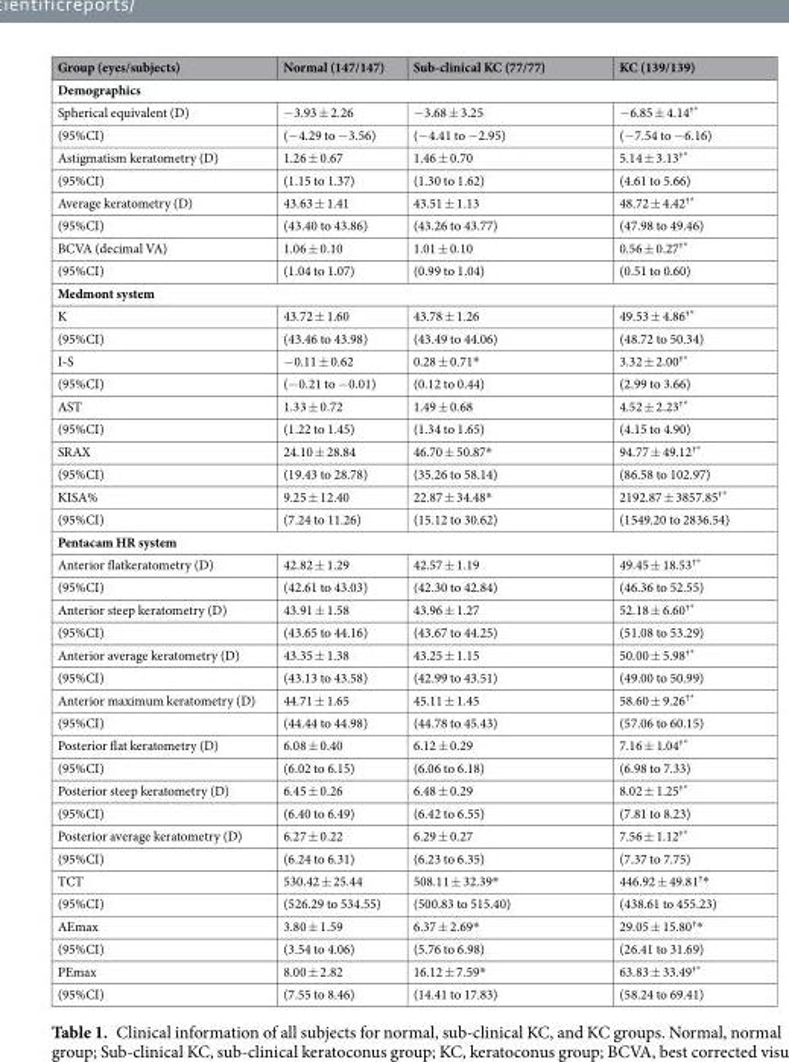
<table><thead><tr><td>Group (eyes/subjects)</td><td>Normal (147/147)</td><td>Sub-clinical KC (77/77)</td><td>KC (139/139)</td></tr></thead><tbody><tr><td colspan="4">Demographics</td></tr><tr><td>Spherical equivalent (D)</td><td>−3.93 ± 2.26</td><td>−3.68 ± 3.25</td><td>−6.85 ± 4.14<sup>†*</sup></td></tr><tr><td>(95%CI)</td><td>(−4.29 to −3.56)</td><td>(−4.41 to −2.95)</td><td>(−7.54 to −6.16)</td></tr><tr><td>Astigmatism keratometry (D)</td><td>1.26 ± 0.67</td><td>1.46 ± 0.70</td><td>5.14 ± 3.13<sup>†*</sup></td></tr><tr><td>(95%CI)</td><td>(1.15 to 1.37)</td><td>(1.30 to 1.62)</td><td>(4.61 to 5.66)</td></tr><tr><td>Average keratometry (D)</td><td>43.63 ± 1.41</td><td>43.51 ± 1.13</td><td>48.72 ± 4.42<sup>†*</sup></td></tr><tr><td>(95%CI)</td><td>(43.40 to 43.86)</td><td>(43.26 to 43.77)</td><td>(47.98 to 49.46)</td></tr><tr><td>BCVA (decimal VA)</td><td>1.06 ± 0.10</td><td>1.01 ± 0.10</td><td>0.56 ± 0.27<sup>†*</sup></td></tr><tr><td>(95%CI)</td><td>(1.04 to 1.07)</td><td>(0.99 to 1.04)</td><td>(0.51 to 0.60)</td></tr><tr><td colspan="4">Medmont system</td></tr><tr><td>K</td><td>43.72 ± 1.60</td><td>43.78 ± 1.26</td><td>49.53 ± 4.86<sup>†*</sup></td></tr><tr><td>(95%CI)</td><td>(43.46 to 43.98)</td><td>(43.49 to 44.06)</td><td>(48.72 to 50.34)</td></tr><tr><td>I-S</td><td>−0.11 ± 0.62</td><td>0.28 ± 0.71*</td><td>3.32 ± 2.00<sup>†*</sup></td></tr><tr><td>(95%CI)</td><td>(−0.21 to −0.01)</td><td>(0.12 to 0.44)</td><td>(2.99 to 3.66)</td></tr><tr><td>AST</td><td>1.33 ± 0.72</td><td>1.49 ± 0.68</td><td>4.52 ± 2.23<sup>†*</sup></td></tr><tr><td>(95%CI)</td><td>(1.22 to 1.45)</td><td>(1.34 to 1.65)</td><td>(4.15 to 4.90)</td></tr><tr><td>SRAX</td><td>24.10 ± 28.84</td><td>46.70 ± 50.87*</td><td>94.77 ± 49.12<sup>†*</sup></td></tr><tr><td>(95%CI)</td><td>(19.43 to 28.78)</td><td>(35.26 to 58.14)</td><td>(86.58 to 102.97)</td></tr><tr><td>KISA%</td><td>9.25 ± 12.40</td><td>22.87 ± 34.48*</td><td>2192.87 ± 3857.85<sup>†*</sup></td></tr><tr><td>(95%CI)</td><td>(7.24 to 11.26)</td><td>(15.12 to 30.62)</td><td>(1549.20 to 2836.54)</td></tr><tr><td colspan="4">Pentacam HR system</td></tr><tr><td>Anterior flatkeratometry (D)</td><td>42.82 ± 1.29</td><td>42.57 ± 1.19</td><td>49.45 ± 18.53<sup>†*</sup></td></tr><tr><td>(95%CI)</td><td>(42.61 to 43.03)</td><td>(42.30 to 42.84)</td><td>(46.36 to 52.55)</td></tr><tr><td>Anterior steep keratometry (D)</td><td>43.91 ± 1.58</td><td>43.96 ± 1.27</td><td>52.18 ± 6.60<sup>†*</sup></td></tr><tr><td>(95%CI)</td><td>(43.65 to 44.16)</td><td>(43.67 to 44.25)</td><td>(51.08 to 53.29)</td></tr><tr><td>Anterior average keratometry (D)</td><td>43.35 ± 1.38</td><td>43.25 ± 1.15</td><td>50.00 ± 5.98<sup>†*</sup></td></tr><tr><td>(95%CI)</td><td>(43.13 to 43.58)</td><td>(42.99 to 43.51)</td><td>(49.00 to 50.99)</td></tr><tr><td>Anterior maximum keratometry (D)</td><td>44.71 ± 1.65</td><td>45.11 ± 1.45</td><td>58.60 ± 9.26<sup>†*</sup></td></tr><tr><td>(95%CI)</td><td>(44.44 to 44.98)</td><td>(44.78 to 45.43)</td><td>(57.06 to 60.15)</td></tr><tr><td>Posterior flat keratometry (D)</td><td>6.08 ± 0.40</td><td>6.12 ± 0.29</td><td>7.16 ± 1.04<sup>†*</sup></td></tr><tr><td>(95%CI)</td><td>(6.02 to 6.15)</td><td>(6.06 to 6.18)</td><td>(6.98 to 7.33)</td></tr><tr><td>Posterior steep keratometry (D)</td><td>6.45 ± 0.26</td><td>6.48 ± 0.29</td><td>8.02 ± 1.25<sup>†*</sup></td></tr><tr><td>(95%CI)</td><td>(6.40 to 6.49)</td><td>(6.42 to 6.55)</td><td>(7.81 to 8.23)</td></tr><tr><td>Posterior average keratometry (D)</td><td>6.27 ± 0.22</td><td>6.29 ± 0.27</td><td>7.56 ± 1.12<sup>†*</sup></td></tr><tr><td>(95%CI)</td><td>(6.24 to 6.31)</td><td>(6.23 to 6.35)</td><td>(7.37 to 7.75)</td></tr><tr><td>TCT</td><td>530.42 ± 25.44</td><td>508.11 ± 32.39*</td><td>446.92 ± 49.81<sup>†</sup>*</td></tr><tr><td>(95%CI)</td><td>(526.29 to 534.55)</td><td>(500.83 to 515.40)</td><td>(438.61 to 455.23)</td></tr><tr><td>AEmax</td><td>3.80 ± 1.59</td><td>6.37 ± 2.69*</td><td>29.05 ± 15.80<sup>†</sup>*</td></tr><tr><td>(95%CI)</td><td>(3.54 to 4.06)</td><td>(5.76 to 6.98)</td><td>(26.41 to 31.69)</td></tr><tr><td>PEmax</td><td>8.00 ± 2.82</td><td>16.12 ± 7.59*</td><td>63.83 ± 33.49<sup>†*</sup></td></tr><tr><td>(95%CI)</td><td>(7.55 to 8.46)</td><td>(14.41 to 17.83)</td><td>(58.24 to 69.41)</td></tr></tbody></table>